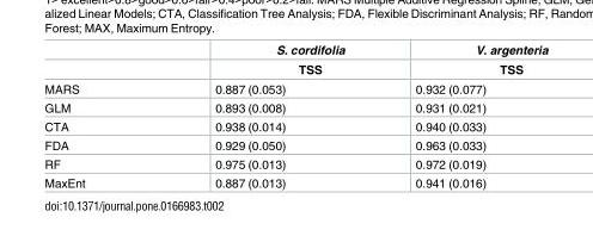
<table><thead><tr><td rowspan="2"></td><td rowspan="2">S. cordifolia TSS</td><td rowspan="2">V. argenteria TSS</td></tr><tr></tr></thead><tbody><tr><td>MARS</td><td>0.887 (0.053)</td><td>0.932 (0.077)</td></tr><tr><td>GLM</td><td>0.893 (0.008)</td><td>0.931 (0.021)</td></tr><tr><td>CTA</td><td>0.938 (0.014)</td><td>0.940 (0.033)</td></tr><tr><td>FDA</td><td>0.929 (0.050)</td><td>0.963 (0.033)</td></tr><tr><td>RF</td><td>0.975 (0.013)</td><td>0.972 (0.019)</td></tr><tr><td>MaxEnt</td><td>0.887 (0.013)</td><td>0.941 (0.016)</td></tr></tbody></table>